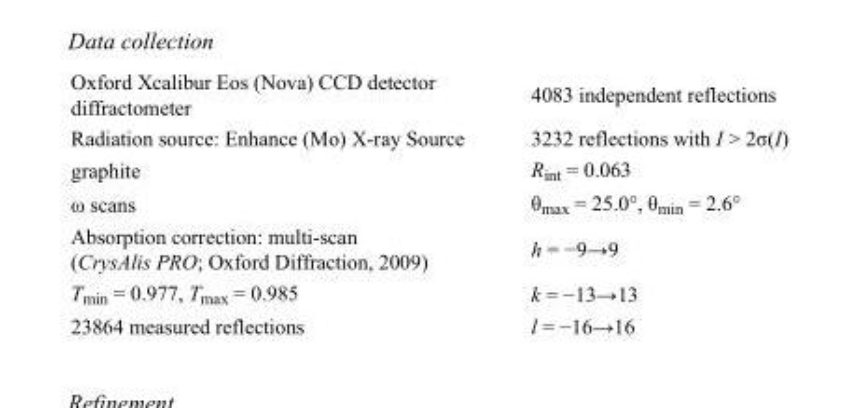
<table><tbody><tr><td>Oxford Xcalibur Eos (Nova) CCD detector diffractometer</td><td>4083 independent reflections</td></tr><tr><td>Radiation source: Enhance (Mo) X-ray Source</td><td>3232 reflections with I &gt; 2σ(I)</td></tr><tr><td>graphite</td><td>R<sub>int</sub> = 0.063</td></tr><tr><td>ω scans</td><td>θ<sub>max</sub> = 25.0°, θ<sub>min</sub> = 2.6°</td></tr><tr><td>Absorption correction: multi-scan (CrysAlis PRO; Oxford Diffraction, 2009)</td><td>h = −9→9</td></tr><tr><td>T<sub>min</sub> = 0.977, T<sub>max</sub> = 0.985</td><td>k = −13→13</td></tr><tr><td>23864 measured reflections</td><td>l = −16→16</td></tr></tbody></table>